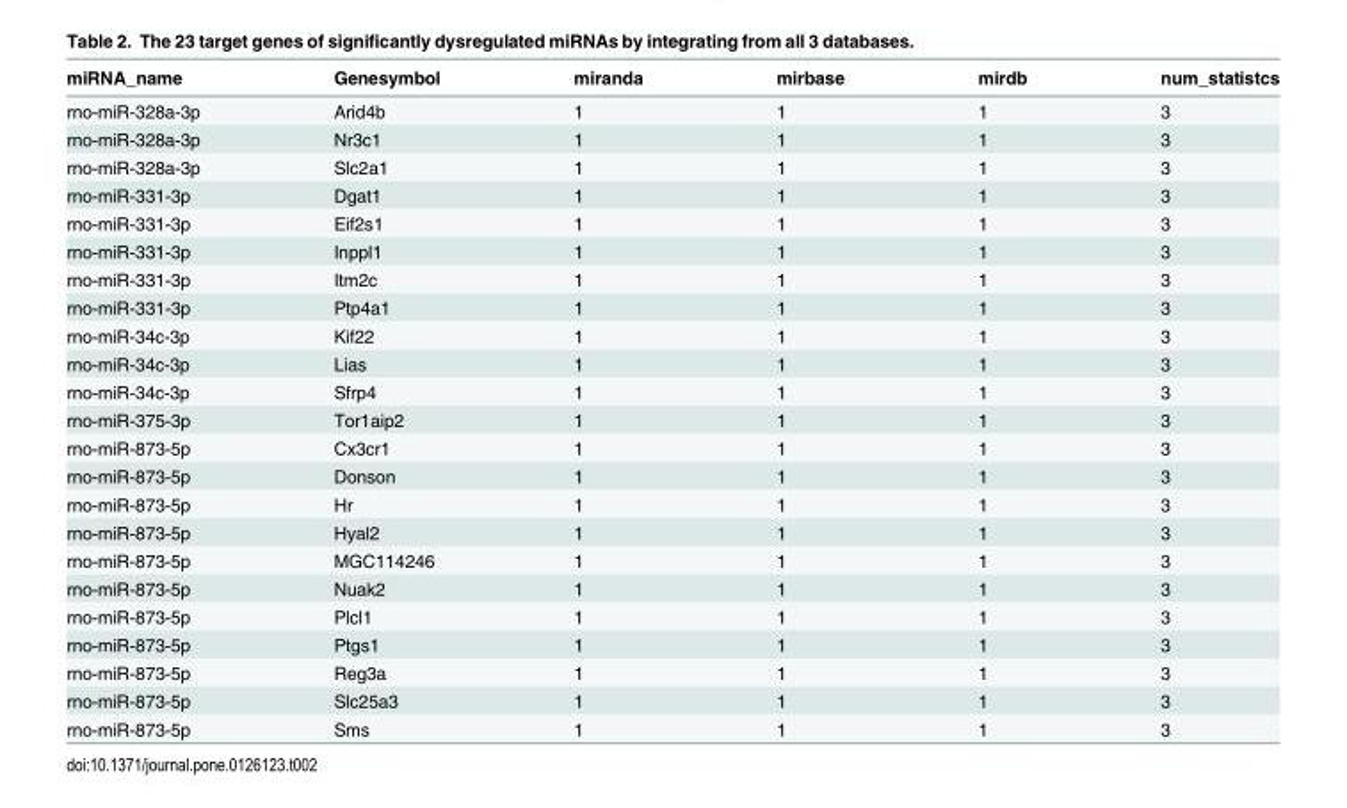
<table><thead><tr><td>miRNA_name</td><td>Genesymbol</td><td>miranda</td><td>mirbase</td><td>mirdb</td><td>num_statistcs</td></tr></thead><tbody><tr><td>rno-miR-328a-3p</td><td>Arid4b</td><td>1</td><td>1</td><td>1</td><td>3</td></tr><tr><td>rno-miR-328a-3p</td><td>Nr3c1</td><td>1</td><td>1</td><td>1</td><td>3</td></tr><tr><td>rno-miR-328a-3p</td><td>Slc2a1</td><td>1</td><td>1</td><td>1</td><td>3</td></tr><tr><td>rno-miR-331-3p</td><td>Dgat1</td><td>1</td><td>1</td><td>1</td><td>3</td></tr><tr><td>rno-miR-331-3p</td><td>Eif2s1</td><td>1</td><td>1</td><td>1</td><td>3</td></tr><tr><td>rno-miR-331-3p</td><td>Inppl1</td><td>1</td><td>1</td><td>1</td><td>3</td></tr><tr><td>rno-miR-331-3p</td><td>Itm2c</td><td>1</td><td>1</td><td>1</td><td>3</td></tr><tr><td>rno-miR-331-3p</td><td>Ptp4a1</td><td>1</td><td>1</td><td>1</td><td>3</td></tr><tr><td>rno-miR-34c-3p</td><td>Kif22</td><td>1</td><td>1</td><td>1</td><td>3</td></tr><tr><td>rno-miR-34c-3p</td><td>Lias</td><td>1</td><td>1</td><td>1</td><td>3</td></tr><tr><td>rno-miR-34c-3p</td><td>Sfrp4</td><td>1</td><td>1</td><td>1</td><td>3</td></tr><tr><td>rno-miR-375-3p</td><td>Tor1aip2</td><td>1</td><td>1</td><td>1</td><td>3</td></tr><tr><td>rno-miR-873-5p</td><td>Cx3cr1</td><td>1</td><td>1</td><td>1</td><td>3</td></tr><tr><td>rno-miR-873-5p</td><td>Donson</td><td>1</td><td>1</td><td>1</td><td>3</td></tr><tr><td>rno-miR-873-5p</td><td>Hr</td><td>1</td><td>1</td><td>1</td><td>3</td></tr><tr><td>rno-miR-873-5p</td><td>Hyal2</td><td>1</td><td>1</td><td>1</td><td>3</td></tr><tr><td>rno-miR-873-5p</td><td>MGC114246</td><td>1</td><td>1</td><td>1</td><td>3</td></tr><tr><td>rno-miR-873-5p</td><td>Nuak2</td><td>1</td><td>1</td><td>1</td><td>3</td></tr><tr><td>rno-miR-873-5p</td><td>Plcl1</td><td>1</td><td>1</td><td>1</td><td>3</td></tr><tr><td>rno-miR-873-5p</td><td>Ptgs1</td><td>1</td><td>1</td><td>1</td><td>3</td></tr><tr><td>rno-miR-873-5p</td><td>Reg3a</td><td>1</td><td>1</td><td>1</td><td>3</td></tr><tr><td>rno-miR-873-5p</td><td>Slc25a3</td><td>1</td><td>1</td><td>1</td><td>3</td></tr><tr><td>rno-miR-873-5p</td><td>Sms</td><td>1</td><td>1</td><td>1</td><td>3</td></tr></tbody></table>